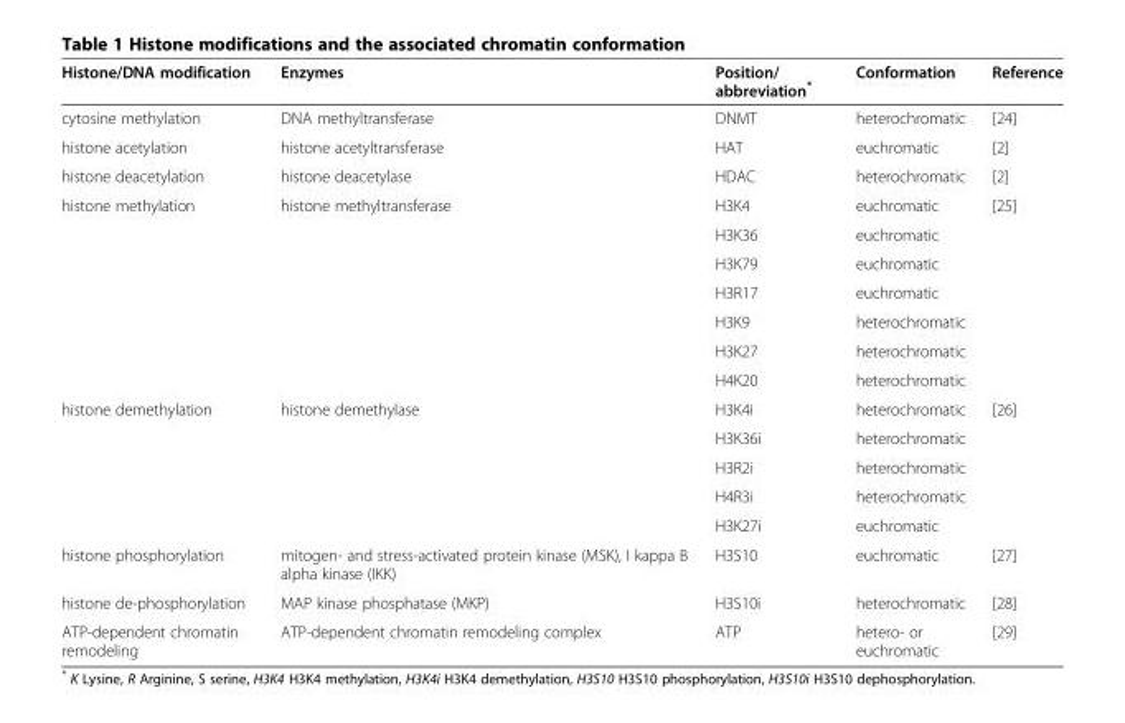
<table><thead><tr><td>Histone/DNA modification</td><td>Enzymes</td><td>Position/ abbreviation*</td><td>Conformation</td><td>Reference</td></tr></thead><tbody><tr><td>cytosine methylation</td><td>DNA methyltransferase</td><td>DNMT</td><td>heterochromatic</td><td>[24]</td></tr><tr><td>histone acetylation</td><td>histone acetyltransferase</td><td>HAT</td><td>euchromatic</td><td>[2]</td></tr><tr><td>histone deacetylation</td><td>histone deacetylase</td><td>HDAC</td><td>heterochromatic</td><td>[2]</td></tr><tr><td rowspan="7">histone methylation</td><td rowspan="7">histone methyltransferase</td><td>H3K4</td><td>euchromatic</td><td rowspan="7">[25]</td></tr><tr><td>H3K36</td><td>euchromatic</td></tr><tr><td>H3K79</td><td>euchromatic</td></tr><tr><td>H3R17</td><td>euchromatic</td></tr><tr><td>H3K9</td><td>heterochromatic</td></tr><tr><td>H3K27</td><td>heterochromatic</td></tr><tr><td>H4K20</td><td>heterochromatic</td></tr><tr><td rowspan="5">histone demethylation</td><td rowspan="5">histone demethylase</td><td>H3K4i</td><td>heterochromatic</td><td rowspan="5">[26]</td></tr><tr><td>H3K36i</td><td>heterochromatic</td></tr><tr><td>H3R2i</td><td>heterochromatic</td></tr><tr><td>H4R3i</td><td>heterochromatic</td></tr><tr><td>H3K27i</td><td>euchromatic</td></tr><tr><td>histone phosphorylation</td><td>mitogen- and stress-activated protein kinase (MSK), I kappa B alpha kinase (IKK)</td><td>H3S10</td><td>euchromatic</td><td>[27]</td></tr><tr><td>histone de-phosphorylation</td><td>MAP kinase phosphatase (MKP)</td><td>H3S10i</td><td>heterochromatic</td><td>[28]</td></tr><tr><td>ATP-dependent chromatin remodeling</td><td>ATP-dependent chromatin remodeling complex</td><td>ATP</td><td>hetero- or euchromatic</td><td>[29]</td></tr></tbody></table>